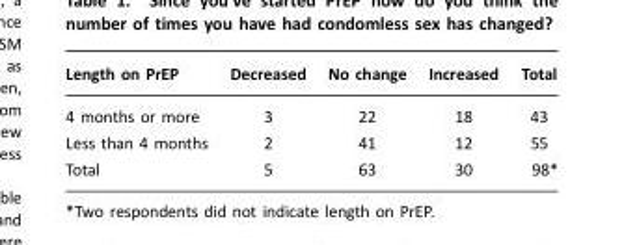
<table><thead><tr><td>Length on PrEP</td><td>Decreased</td><td>No change</td><td>Increased</td><td>Total</td></tr></thead><tbody><tr><td>4 months or more</td><td>3</td><td>22</td><td>18</td><td>43</td></tr><tr><td>Less than 4 months</td><td>2</td><td>41</td><td>12</td><td>55</td></tr><tr><td>Total</td><td>5</td><td>63</td><td>30</td><td>98*</td></tr></tbody></table>